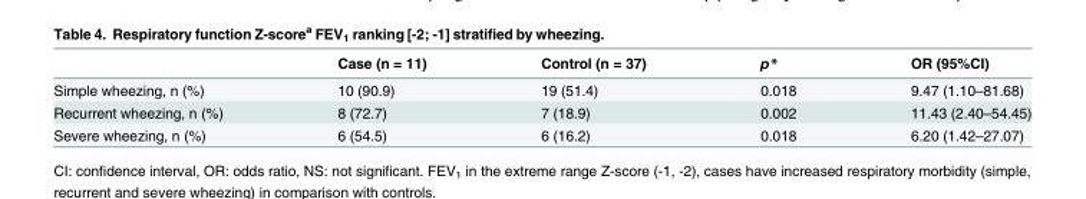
<table><thead><tr><td></td><td>Case (n = 11)</td><td>Control (n = 37)</td><td>p*</td><td>OR (95%CI)</td></tr></thead><tbody><tr><td>Simple wheezing, n (%)</td><td>10 (90.9)</td><td>19 (51.4)</td><td>0.018</td><td>9.47 (1.10–81.68)</td></tr><tr><td>Recurrent wheezing, n (%)</td><td>8 (72.7)</td><td>7 (18.9)</td><td>0.002</td><td>11.43 (2.40–54.45)</td></tr><tr><td>Severe wheezing, n (%)</td><td>6 (54.5)</td><td>6 (16.2)</td><td>0.018</td><td>6.20 (1.42–27.07)</td></tr></tbody></table>